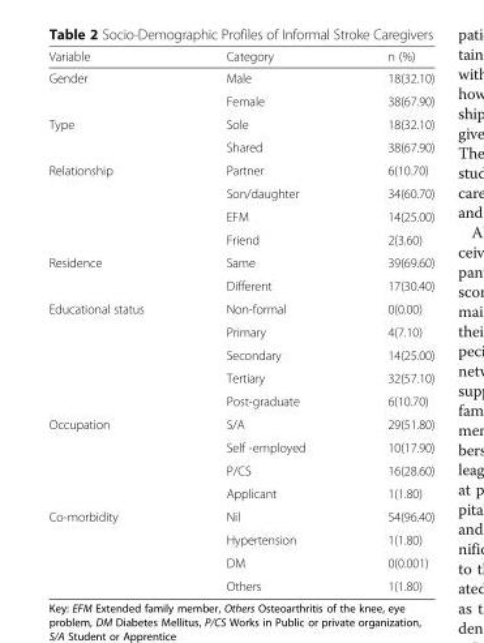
<table><thead><tr><td>Variable</td><td>Category</td><td>n (%)</td></tr></thead><tbody><tr><td rowspan="2">Gender</td><td>Male</td><td>18(32.10)</td></tr><tr><td>Female</td><td>38(67.90)</td></tr><tr><td rowspan="2">Type</td><td>Sole</td><td>18(32.10)</td></tr><tr><td>Shared</td><td>38(67.90)</td></tr><tr><td rowspan="4">Relationship</td><td>Partner</td><td>6(10.70)</td></tr><tr><td>Son/daughter</td><td>34(60.70)</td></tr><tr><td>EFM</td><td>14(25.00)</td></tr><tr><td>Friend</td><td>2(3.60)</td></tr><tr><td rowspan="2">Residence</td><td>Same</td><td>39(69.60)</td></tr><tr><td>Different</td><td>17(30.40)</td></tr><tr><td rowspan="5">Educational status</td><td>Non-formal</td><td>0(0.00)</td></tr><tr><td>Primary</td><td>4(7.10)</td></tr><tr><td>Secondary</td><td>14(25.00)</td></tr><tr><td>Tertiary</td><td>32(57.10)</td></tr><tr><td>Post-graduate</td><td>6(10.70)</td></tr><tr><td rowspan="4">Occupation</td><td>S/A</td><td>29(51.80)</td></tr><tr><td>Self -employed</td><td>10(17.90)</td></tr><tr><td>P/CS</td><td>16(28.60)</td></tr><tr><td>Applicant</td><td>1(1.80)</td></tr><tr><td rowspan="4">Co-morbidity</td><td>Nil</td><td>54(96.40)</td></tr><tr><td>Hypertension</td><td>1(1.80)</td></tr><tr><td>DM</td><td>0(0.001)</td></tr><tr><td>Others</td><td>1(1.80)</td></tr></tbody></table>